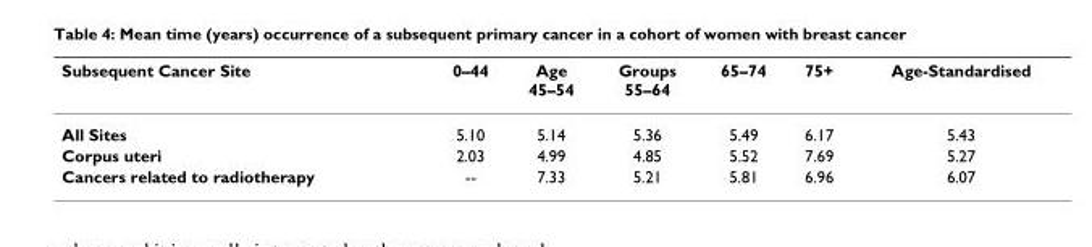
<table><thead><tr><td>Subsequent Cancer Site</td><td>0–44</td><td>Age 45–54</td><td>Groups 55–64</td><td>65–74</td><td>75+</td><td>Age-Standardised</td></tr></thead><tbody><tr><td>All Sites</td><td>5.10</td><td>5.14</td><td>5.36</td><td>5.49</td><td>6.17</td><td>5.43</td></tr><tr><td>Corpus uteri</td><td>2.03</td><td>4.99</td><td>4.85</td><td>5.52</td><td>7.69</td><td>5.27</td></tr><tr><td>Cancers related to radiotherapy</td><td>--</td><td>7.33</td><td>5.21</td><td>5.81</td><td>6.96</td><td>6.07</td></tr></tbody></table>